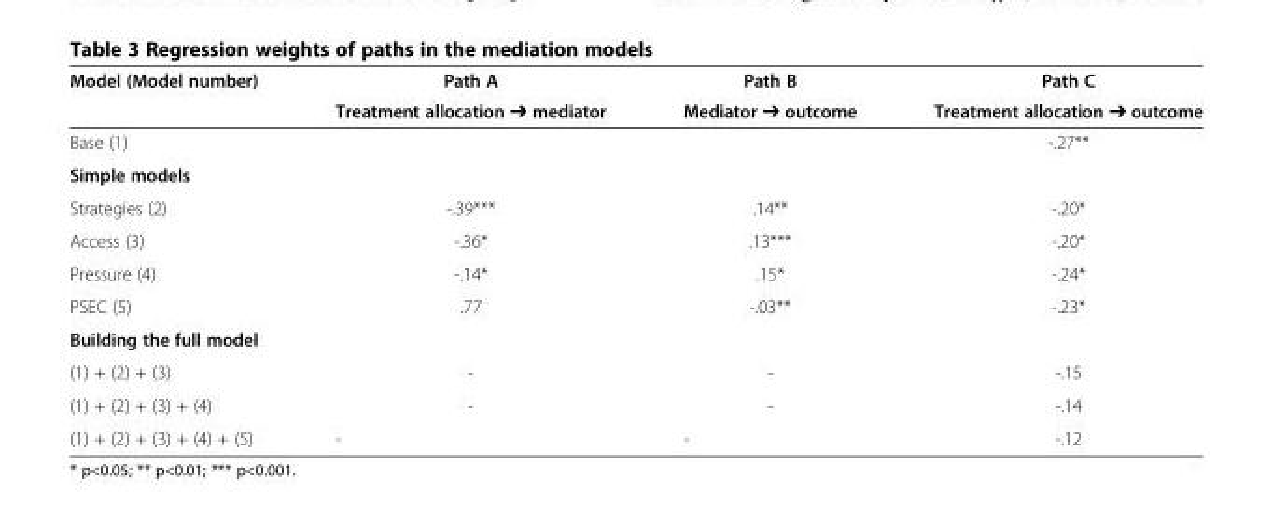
<table><thead><tr><td rowspan="2">Model (Model number)</td><td rowspan="2">Path A Treatment allocation ➔ mediator</td><td rowspan="2">Path B Mediator ➔ outcome</td><td rowspan="2">Path C Treatment allocation ➔ outcome</td></tr><tr></tr></thead><tbody><tr><td>Base (1)</td><td></td><td></td><td>-.27**</td></tr><tr><td colspan="4">Simple models</td></tr><tr><td>Strategies (2)</td><td>-.39***</td><td>.14**</td><td>-.20*</td></tr><tr><td>Access (3)</td><td>-.36*</td><td>.13***</td><td>-.20*</td></tr><tr><td>Pressure (4)</td><td>-.14*</td><td>.15*</td><td>-.24*</td></tr><tr><td>PSEC (5)</td><td>.77</td><td>-.03**</td><td>-.23*</td></tr><tr><td colspan="4">Building the full model</td></tr><tr><td>(1) + (2) + (3)</td><td>-</td><td>-</td><td>-.15</td></tr><tr><td>(1) + (2) + (3) + (4)</td><td>-</td><td>-</td><td>-.14</td></tr><tr><td>(1) + (2) + (3) + (4) + (5)</td><td>-</td><td>-</td><td>-.12</td></tr></tbody></table>